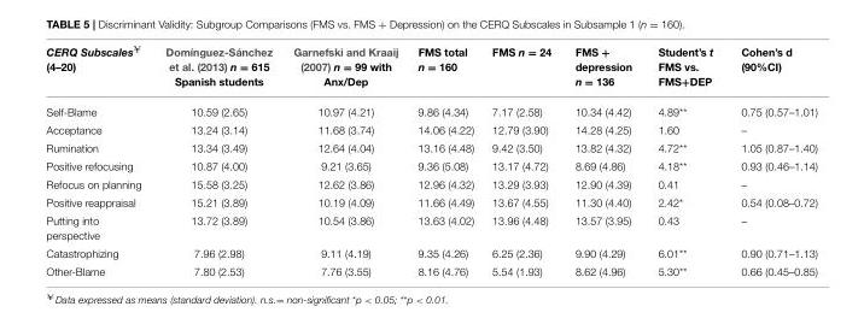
<table><thead><tr><td>CERQ Subscales<sup>¥</sup> (4–20)</td><td>Domínguez-Sánchez et al. (2013) n = 615 Spanish students</td><td>Garnefski and Kraaij (2007) n = 99 with Anx/Dep</td><td>FMS total n = 160</td><td>FMS n = 24</td><td>FMS + depression n = 136</td><td>Student’s t FMS vs. FMS+DEP</td><td>Cohen’s d (90%CI)</td></tr></thead><tbody><tr><td>Self-Blame</td><td>10.59 (2.65)</td><td>10.97 (4.21)</td><td>9.86 (4.34)</td><td>7.17 (2.58)</td><td>10.34 (4.42)</td><td>4.89**</td><td>0.75 (0.57–1.01)</td></tr><tr><td>Acceptance</td><td>13.24 (3.14)</td><td>11.68 (3.74)</td><td>14.06 (4.22)</td><td>12.79 (3.90)</td><td>14.28 (4.25)</td><td>1.60</td><td>–</td></tr><tr><td>Rumination</td><td>13.34 (3.49)</td><td>12.64 (4.04)</td><td>13.16 (4.48)</td><td>9.42 (3.50)</td><td>13.82 (4.32)</td><td>4.72**</td><td>1.05 (0.87–1.40)</td></tr><tr><td>Positive refocusing</td><td>10.87 (4.00)</td><td>9.21 (3.65)</td><td>9.36 (5.08)</td><td>13.17 (4.72)</td><td>8.69 (4.86)</td><td>4.18**</td><td>0.93 (0.46–1.14)</td></tr><tr><td>Refocus on planning</td><td>15.58 (3.25)</td><td>12.62 (3.86)</td><td>12.96 (4.32)</td><td>13.29 (3.93)</td><td>12.90 (4.39)</td><td>0.41</td><td>–</td></tr><tr><td>Positive reappraisal</td><td>15.21 (3.89)</td><td>10.19 (4.09)</td><td>11.66 (4.49)</td><td>13.67 (4.55)</td><td>11.30 (4.40)</td><td>2.42*</td><td>0.54 (0.08–0.72)</td></tr><tr><td>Putting into perspective</td><td>13.72 (3.89)</td><td>10.54 (3.86)</td><td>13.63 (4.02)</td><td>13.96 (4.48)</td><td>13.57 (3.95)</td><td>0.43</td><td>–</td></tr><tr><td>Catastrophizing</td><td>7.96 (2.98)</td><td>9.11 (4.19)</td><td>9.35 (4.26)</td><td>6.25 (2.36)</td><td>9.90 (4.29)</td><td>6.01**</td><td>0.90 (0.71–1.13)</td></tr><tr><td>Other-Blame</td><td>7.80 (2.53)</td><td>7.76 (3.55)</td><td>8.16 (4.76)</td><td>5.54 (1.93)</td><td>8.62 (4.96)</td><td>5.30**</td><td>0.66 (0.45–0.85)</td></tr></tbody></table>